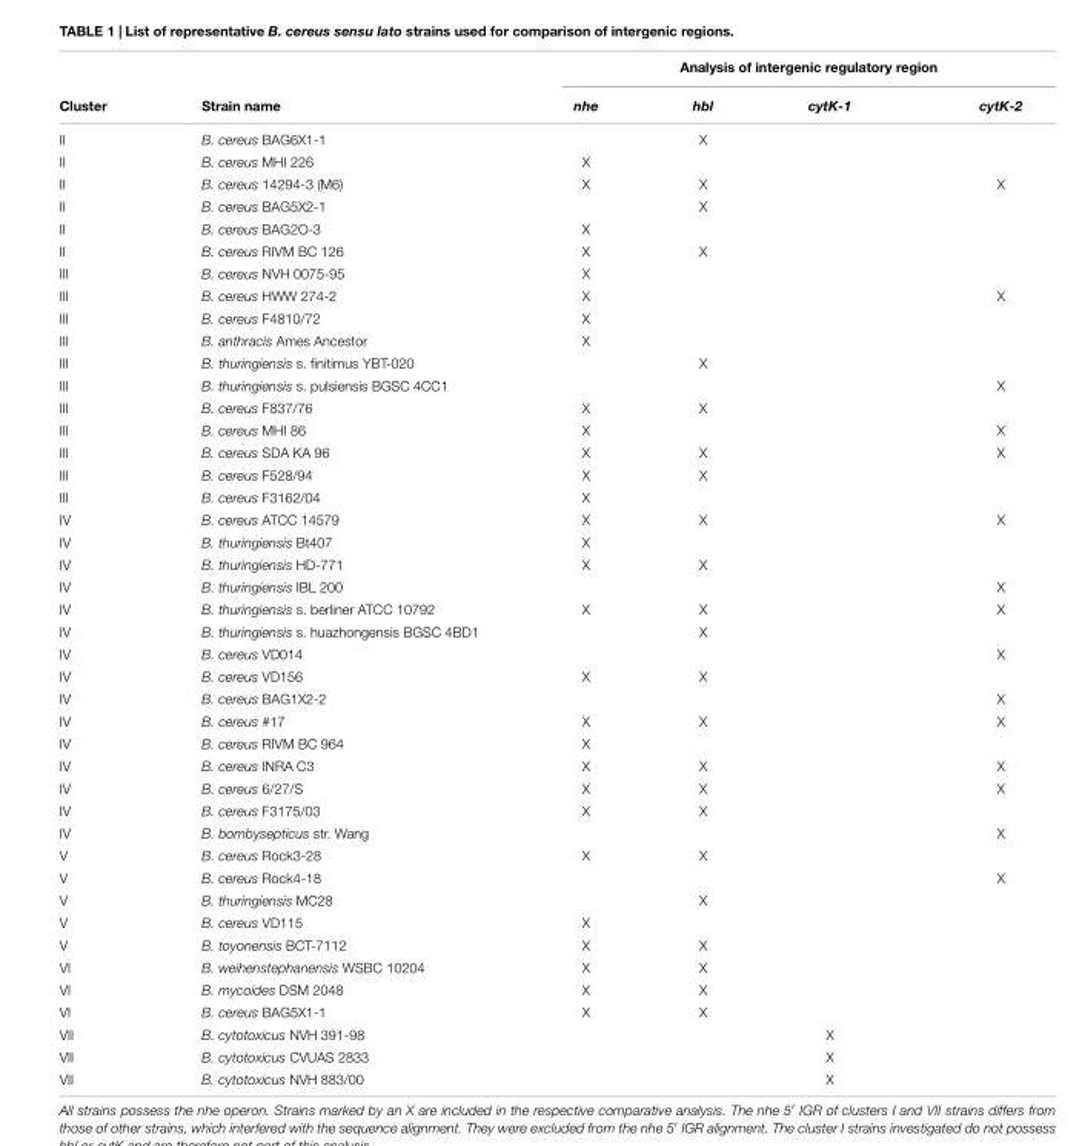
<table><thead><tr><td rowspan="2">Cluster</td><td rowspan="2">Strain name</td><td colspan="4">Analysis of intergenic regulatory region</td></tr><tr><td>nhe</td><td>hbl</td><td>cytK-1</td><td>cytK-2</td></tr></thead><tbody><tr><td>II</td><td>B. cereus BAG6X1-1</td><td></td><td>X</td><td></td><td></td></tr><tr><td>II</td><td>B. cereus MHI 226</td><td>X</td><td></td><td></td><td></td></tr><tr><td>II</td><td>B. cereus 14294-3 (M6)</td><td>X</td><td>X</td><td></td><td>X</td></tr><tr><td>II</td><td>B. cereus BAG5X2-1</td><td></td><td>X</td><td></td><td></td></tr><tr><td>II</td><td>B. cereus BAG2O-3</td><td>X</td><td></td><td></td><td></td></tr><tr><td>II</td><td>B. cereus RIVM BC 126</td><td>X</td><td>X</td><td></td><td></td></tr><tr><td>III</td><td>B. cereus NVH 0075-95</td><td>X</td><td></td><td></td><td></td></tr><tr><td>III</td><td>B. cereus HWW 274-2</td><td>X</td><td></td><td></td><td>X</td></tr><tr><td>III</td><td>B. cereus F4810/72</td><td>X</td><td></td><td></td><td></td></tr><tr><td>III</td><td>B. anthracis Ames Ancestor</td><td>X</td><td></td><td></td><td></td></tr><tr><td>III</td><td>B. thuringiensis s. finitimus YBT-020</td><td></td><td>X</td><td></td><td></td></tr><tr><td>III</td><td>B. thuringiensis s. pulsiensis BGSC 4CC1</td><td></td><td></td><td></td><td>X</td></tr><tr><td>III</td><td>B. cereus F837/76</td><td>X</td><td>X</td><td></td><td></td></tr><tr><td>III</td><td>B. cereus MHI 86</td><td>X</td><td></td><td></td><td>X</td></tr><tr><td>III</td><td>B. cereus SDA KA 96</td><td>X</td><td>X</td><td></td><td>X</td></tr><tr><td>III</td><td>B. cereus F528/94</td><td>X</td><td>X</td><td></td><td></td></tr><tr><td>III</td><td>B. cereus F3162/04</td><td>X</td><td></td><td></td><td></td></tr><tr><td>IV</td><td>B. cereus ATCC 14579</td><td>X</td><td>X</td><td></td><td>X</td></tr><tr><td>IV</td><td>B. thuringiensis Bt407</td><td>X</td><td></td><td></td><td></td></tr><tr><td>IV</td><td>B. thuringiensis HD-771</td><td>X</td><td>X</td><td></td><td></td></tr><tr><td>IV</td><td>B. thuringiensis IBL 200</td><td></td><td></td><td></td><td>X</td></tr><tr><td>IV</td><td>B. thuringiensis s. berliner ATCC 10792</td><td>X</td><td>X</td><td></td><td>X</td></tr><tr><td>IV</td><td>B. thuringiensis s. huazhongensis BGSC 4BD1</td><td></td><td>X</td><td></td><td></td></tr><tr><td>IV</td><td>B. cereus VD014</td><td></td><td></td><td></td><td>X</td></tr><tr><td>IV</td><td>B. cereus VD156</td><td>X</td><td>X</td><td></td><td></td></tr><tr><td>IV</td><td>B. cereus BAG1X2-2</td><td></td><td></td><td></td><td>X</td></tr><tr><td>IV</td><td>B. cereus #17</td><td>X</td><td>X</td><td></td><td>X</td></tr><tr><td>IV</td><td>B. cereus RIVM BC 964</td><td>X</td><td></td><td></td><td></td></tr><tr><td>IV</td><td>B. cereus INRA C3</td><td>X</td><td>X</td><td></td><td>X</td></tr><tr><td>IV</td><td>B. cereus 6/27/S</td><td>X</td><td>X</td><td></td><td>X</td></tr><tr><td>IV</td><td>B. cereus F3175/03</td><td>X</td><td>X</td><td></td><td></td></tr><tr><td>IV</td><td>B. bombysepticus str. Wang</td><td></td><td></td><td></td><td>X</td></tr><tr><td>V</td><td>B. cereus Rock3-28</td><td>X</td><td>X</td><td></td><td></td></tr><tr><td>V</td><td>B. cereus Rock4-18</td><td></td><td></td><td></td><td>X</td></tr><tr><td>V</td><td>B. thuringiensis MC28</td><td></td><td>X</td><td></td><td></td></tr><tr><td>V</td><td>B. cereus VD115</td><td>X</td><td></td><td></td><td></td></tr><tr><td>V</td><td>B. toyonensis BCT-7112</td><td>X</td><td>X</td><td></td><td></td></tr><tr><td>VI</td><td>B. weihenstephanensis WSBC 10204</td><td>X</td><td>X</td><td></td><td></td></tr><tr><td>VI</td><td>B. mycoides DSM 2048</td><td>X</td><td>X</td><td></td><td></td></tr><tr><td>VI</td><td>B. cereus BAG5X1-1</td><td>X</td><td>X</td><td></td><td></td></tr><tr><td>VII</td><td>B. cytotoxicus NVH 391-98</td><td></td><td></td><td>X</td><td></td></tr><tr><td>VII</td><td>B. cytotoxicus CVUAS 2833</td><td></td><td></td><td>X</td><td></td></tr><tr><td>VII</td><td>B. cytotoxicus NVH 883/00</td><td></td><td></td><td>X</td><td></td></tr></tbody></table>